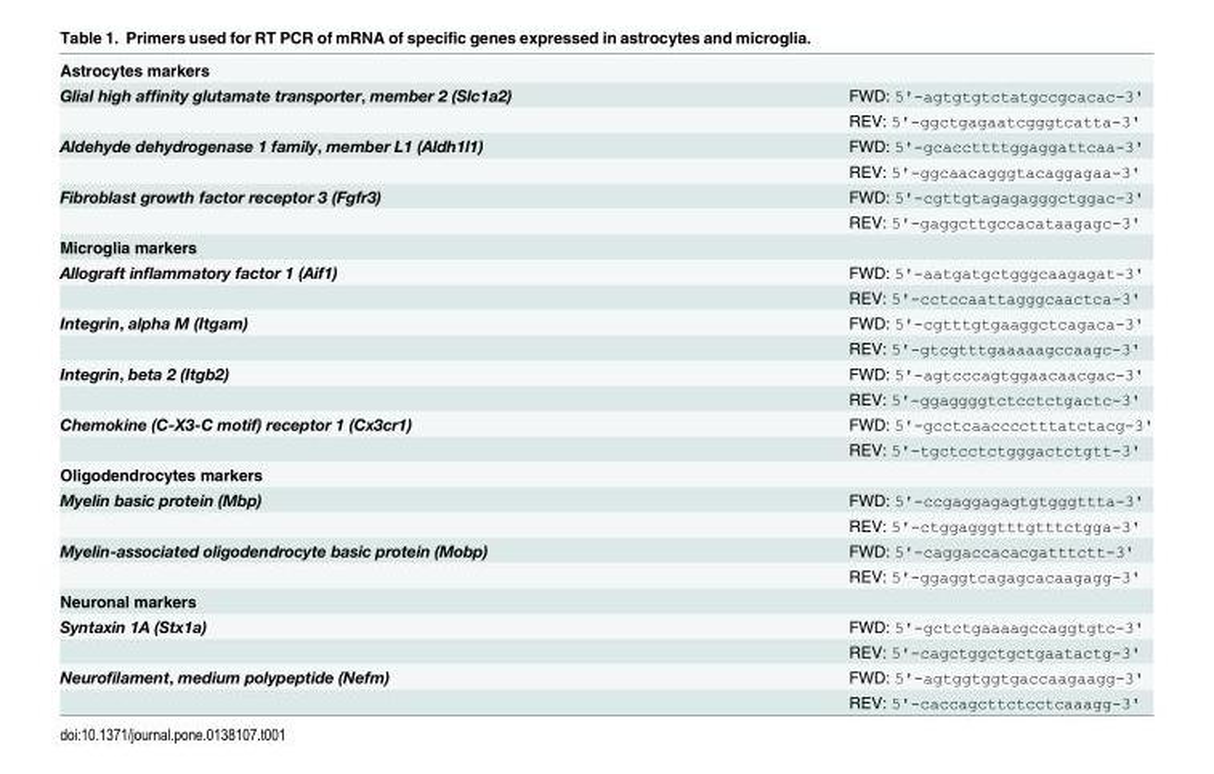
<table><tbody><tr><td colspan="2">Astrocytes markers</td></tr><tr><td rowspan="2">Glial high affinity glutamate transporter, member 2 (Slc1a2)</td><td>FWD: 5&#x27;-agtgtgtctatgccgcacac-3&#x27;</td></tr><tr><td>REV: 5&#x27;-ggctgagaatcgggtcatta-3&#x27;</td></tr><tr><td rowspan="2">Aldehyde dehydrogenase 1 family, member L1 (Aldh1l1)</td><td>FWD: 5&#x27;-gcaccttttggaggattcaa-3&#x27;</td></tr><tr><td>REV: 5&#x27;-ggcaacagggtacaggagaa-3&#x27;</td></tr><tr><td rowspan="2">Fibroblast growth factor receptor 3 (Fgfr3)</td><td>FWD: 5&#x27;-cgttgtagagagggctggac-3&#x27;</td></tr><tr><td>REV: 5&#x27;-gaggcttgccacataagagc-3&#x27;</td></tr><tr><td colspan="2">Microglia markers</td></tr><tr><td rowspan="2">Allograft inflammatory factor 1 (Aif1)</td><td>FWD: 5&#x27;-aatgatgctgggcaagagat-3&#x27;</td></tr><tr><td>REV: 5&#x27;-cctccaattagggcaactca-3&#x27;</td></tr><tr><td rowspan="2">Integrin, alpha M (Itgam)</td><td>FWD: 5&#x27;-cgtttgtgaaggctcagaca-3&#x27;</td></tr><tr><td>REV: 5&#x27;-gtcgtttgaaaaagccaagc-3&#x27;</td></tr><tr><td rowspan="2">Integrin, beta 2 (Itgb2)</td><td>FWD: 5&#x27;-agtcccagtggaacaacgac-3&#x27;</td></tr><tr><td>REV: 5&#x27;-ggaggggtctcctctgactc-3&#x27;</td></tr><tr><td rowspan="2">Chemokine (C-X3-C motif) receptor 1 (Cx3cr1)</td><td>FWD: 5&#x27;-gcctcaacccctttatctacg-3&#x27;</td></tr><tr><td>REV: 5&#x27;-tgctcctctgggactctgtt-3&#x27;</td></tr><tr><td colspan="2">Oligodendrocytes markers</td></tr><tr><td rowspan="2">Myelin basic protein (Mbp)</td><td>FWD: 5&#x27;-ccgaggagagtgtgggttta-3&#x27;</td></tr><tr><td>REV: 5&#x27;-ctggagggtttgtttctgga-3&#x27;</td></tr><tr><td rowspan="2">Myelin-associated oligodendrocyte basic protein (Mobp)</td><td>FWD: 5&#x27;-caggaccacacgatttctt-3&#x27;</td></tr><tr><td>REV: 5&#x27;-ggaggtcagagcacaagagg-3&#x27;</td></tr><tr><td colspan="2">Neuronal markers</td></tr><tr><td rowspan="2">Syntaxin 1A (Stx1a)</td><td>FWD: 5&#x27;-gctctgaaaagccaggtgtc-3&#x27;</td></tr><tr><td>REV: 5&#x27;-cagctggctgctgaatactg-3&#x27;</td></tr><tr><td rowspan="2">Neurofilament, medium polypeptide (Nefm)</td><td>FWD: 5&#x27;-agtggtggtgaccaagaagg-3&#x27;</td></tr><tr><td>REV: 5&#x27;-caccagcttctcctcaaagg-3&#x27;</td></tr></tbody></table>